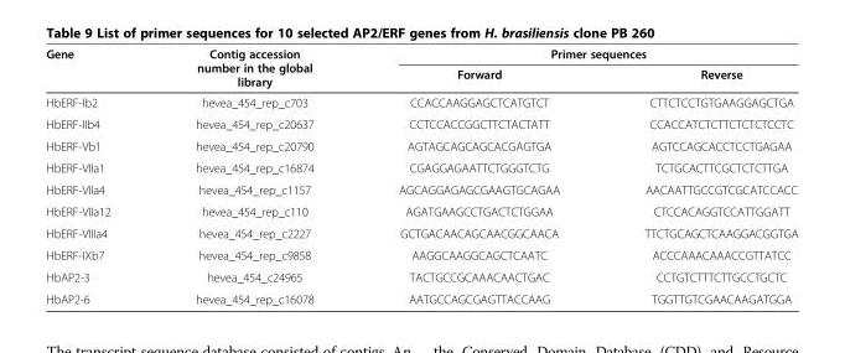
<table><thead><tr><td rowspan="2">Gene</td><td rowspan="2">Contig accession number in the global library</td><td colspan="2">Primer sequences</td></tr><tr><td>Forward</td><td>Reverse</td></tr></thead><tbody><tr><td>HbERF-Ib2</td><td>hevea_454_rep_c703</td><td>CCACCAAGGAGCTCATGTCT</td><td>CTTCTCCTGTGAAGGAGCTGA</td></tr><tr><td>HbERF-IIb4</td><td>hevea_454_rep_c20637</td><td>CCTCCACCGGCTTCTACTATT</td><td>CCACCATCTCTTCTCTCTCCTC</td></tr><tr><td>HbERF-Vb1</td><td>hevea_454_rep_c20790</td><td>AGTAGCAGCAGCACGAGTGA</td><td>AGTCCAGCACCTCCTGAGAA</td></tr><tr><td>HbERF-VIIa1</td><td>hevea_454_rep_c16874</td><td>CGAGGAGAATTCTGGGTCTG</td><td>TCTGCACTTCGCTCTCTTGA</td></tr><tr><td>HbERF-VIIa4</td><td>hevea_454_rep_c1157</td><td>AGCAGGAGAGCGAAGTGCAGAA</td><td>AACAATTGCCGTCGCATCCACC</td></tr><tr><td>HbERF-VIIa12</td><td>hevea_454_rep_c110</td><td>AGATGAAGCCTGACTCTGGAA</td><td>CTCCACAGGTCCATTGGATT</td></tr><tr><td>HbERF-VIIIa4</td><td>hevea_454_rep_c2227</td><td>GCTGACAACAGCAACGGCAACA</td><td>TTCTGCAGCTCAAGGACGGTGA</td></tr><tr><td>HbERF-IXb7</td><td>hevea_454_rep_c9858</td><td>AAGGCAAGGCAGCTCAATC</td><td>ACCCAAACAAACCGTTATCC</td></tr><tr><td>HbAP2-3</td><td>hevea_454_c24965</td><td>TACTGCCGCAAACAACTGAC</td><td>CCTGTCTTTCTTGCCTGCTC</td></tr><tr><td>HbAP2-6</td><td>hevea_454_rep_c16078</td><td>AATGCCAGCGAGTTACCAAG</td><td>TGGTTGTCGAACAAGATGGA</td></tr></tbody></table>